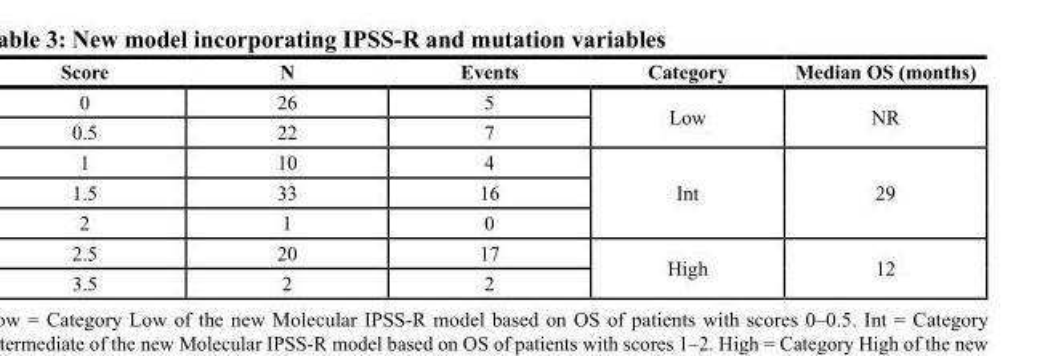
<table><thead><tr><td>Score</td><td>N</td><td>Events</td><td>Category</td><td>Median OS (months)</td></tr></thead><tbody><tr><td>0</td><td>26</td><td>5</td><td rowspan="2">Low</td><td rowspan="2">NR</td></tr><tr><td>0.5</td><td>22</td><td>7</td></tr><tr><td>1</td><td>10</td><td>4</td><td rowspan="3">Int</td><td rowspan="3">29</td></tr><tr><td>1.5</td><td>33</td><td>16</td></tr><tr><td>2</td><td>1</td><td>0</td></tr><tr><td>2.5</td><td>20</td><td>17</td><td rowspan="2">High</td><td rowspan="2">12</td></tr><tr><td>3.5</td><td>2</td><td>2</td></tr></tbody></table>